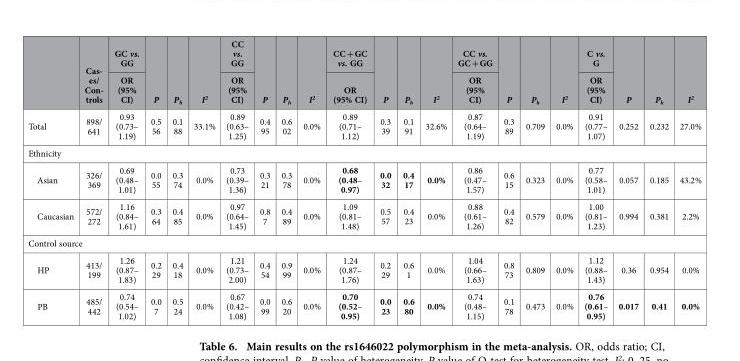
<table><thead><tr><td rowspan="2"></td><td rowspan="2">Cas- es/ Con- trols</td><td rowspan="2">GC vs. GG OR (95% CI)</td><td rowspan="2">P</td><td rowspan="2">P<sub>h</sub></td><td rowspan="2">I<sup>2</sup></td><td rowspan="2">CC vs. GG OR (95% CI)</td><td rowspan="2">P</td><td rowspan="2">P<sub>h</sub></td><td rowspan="2">I<sup>2</sup></td><td rowspan="2">CC + GC vs. GG OR (95% CI)</td><td rowspan="2">P</td><td rowspan="2">P<sub>h</sub></td><td rowspan="2">I<sup>2</sup></td><td rowspan="2">CC vs. GC + GG OR (95% CI)</td><td rowspan="2">P</td><td rowspan="2">P<sub>h</sub></td><td rowspan="2">I<sup>2</sup></td><td rowspan="2">C vs. G OR (95% CI)</td><td rowspan="2">P</td><td rowspan="2">P<sub>h</sub></td><td rowspan="2">I<sup>2</sup></td></tr><tr></tr></thead><tbody><tr><td>Total</td><td>898/ 641</td><td>0.93 (0.73– 1.19)</td><td>0.5 56</td><td>0.1 88</td><td>33.1%</td><td>0.89 (0.63– 1.25)</td><td>0.4 95</td><td>0.6 02</td><td>0.0%</td><td>0.89 (0.71– 1.12)</td><td>0.3 39</td><td>0.1 91</td><td>32.6%</td><td>0.87 (0.64– 1.19)</td><td>0.3 89</td><td>0.709</td><td>0.0%</td><td>0.91 (0.77– 1.07)</td><td>0.252</td><td>0.232</td><td>27.0%</td></tr><tr><td colspan="22">Ethnicity</td></tr><tr><td>Asian</td><td>326/ 369</td><td>0.69 (0.48– 1.01)</td><td>0.0 55</td><td>0.3 74</td><td>0.0%</td><td>0.73 (0.39– 1.36)</td><td>0.3 21</td><td>0.3 78</td><td>0.0%</td><td>0.68 (0.48– 0.97)</td><td>0.0 32</td><td>0.4 17</td><td>0.0%</td><td>0.86 (0.47– 1.57)</td><td>0.6 15</td><td>0.323</td><td>0.0%</td><td>0.77 (0.58– 1.01)</td><td>0.057</td><td>0.185</td><td>43.2%</td></tr><tr><td>Caucasian</td><td>572/ 272</td><td>1.16 (0.84– 1.61)</td><td>0.3 64</td><td>0.4 85</td><td>0.0%</td><td>0.97 (0.64– 1.45)</td><td>0.8 7</td><td>0.4 89</td><td>0.0%</td><td>1.09 (0.81– 1.48)</td><td>0.5 57</td><td>0.4 23</td><td>0.0%</td><td>0.88 (0.61– 1.26)</td><td>0.4 82</td><td>0.579</td><td>0.0%</td><td>1.00 (0.81– 1.23)</td><td>0.994</td><td>0.381</td><td>2.2%</td></tr><tr><td colspan="22">Control source</td></tr><tr><td>HP</td><td>413/ 199</td><td>1.26 (0.87– 1.83)</td><td>0.2 29</td><td>0.4 18</td><td>0.0%</td><td>1.21 (0.73– 2.00)</td><td>0.4 54</td><td>0.9 99</td><td>0.0%</td><td>1.24 (0.87– 1.76)</td><td>0.2 29</td><td>0.6 1</td><td>0.0%</td><td>1.04 (0.66– 1.63)</td><td>0.8 73</td><td>0.809</td><td>0.0%</td><td>1.12 (0.88– 1.43)</td><td>0.36</td><td>0.954</td><td>0.0%</td></tr><tr><td>PB</td><td>485/ 442</td><td>0.74 (0.54– 1.02)</td><td>0.0 7</td><td>0.5 24</td><td>0.0%</td><td>0.67 (0.42– 1.08)</td><td>0.0 99</td><td>0.6 20</td><td>0.0%</td><td>0.70 (0.52– 0.95)</td><td>0.0 23</td><td>0.6 80</td><td>0.0%</td><td>0.74 (0.48– 1.15)</td><td>0.1 78</td><td>0.473</td><td>0.0%</td><td>0.76 (0.61– 0.95)</td><td>0.017</td><td>0.41</td><td>0.0%</td></tr></tbody></table>